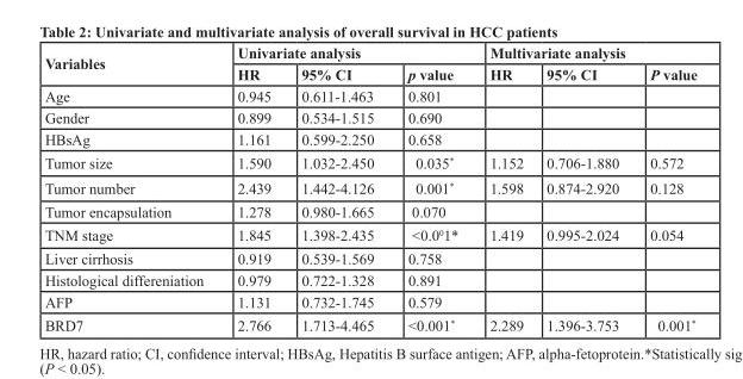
<table><thead><tr><td rowspan="2">Variables</td><td colspan="3">Univariate analysis</td><td colspan="3">Multivariate analysis</td></tr><tr><td>HR</td><td>95% CI</td><td>p value</td><td>HR</td><td>95% CI</td><td>P value</td></tr></thead><tbody><tr><td>Age</td><td>0.945</td><td>0.611-1.463</td><td>0.801</td><td></td><td></td><td></td></tr><tr><td>Gender</td><td>0.899</td><td>0.534-1.515</td><td>0.690</td><td></td><td></td><td></td></tr><tr><td>HBsAg</td><td>1.161</td><td>0.599-2.250</td><td>0.658</td><td></td><td></td><td></td></tr><tr><td>Tumor size</td><td>1.590</td><td>1.032-2.450</td><td>0.035*</td><td>1.152</td><td>0.706-1.880</td><td>0.572</td></tr><tr><td>Tumor number</td><td>2.439</td><td>1.442-4.126</td><td>0.001*</td><td>1.598</td><td>0.874-2.920</td><td>0.128</td></tr><tr><td>Tumor encapsulation</td><td>1.278</td><td>0.980-1.665</td><td>0.070</td><td></td><td></td><td></td></tr><tr><td>TNM stage</td><td>1.845</td><td>1.398-2.435</td><td>&lt;0.0<sup>0</sup>1*</td><td>1.419</td><td>0.995-2.024</td><td>0.054</td></tr><tr><td>Liver cirrhosis</td><td>0.919</td><td>0.539-1.569</td><td>0.758</td><td></td><td></td><td></td></tr><tr><td>Histological differeniation</td><td>0.979</td><td>0.722-1.328</td><td>0.891</td><td></td><td></td><td></td></tr><tr><td>AFP</td><td>1.131</td><td>0.732-1.745</td><td>0.579</td><td></td><td></td><td></td></tr><tr><td>BRD7</td><td>2.766</td><td>1.713-4.465</td><td>&lt;0.001*</td><td>2.289</td><td>1.396-3.753</td><td>0.001*</td></tr></tbody></table>